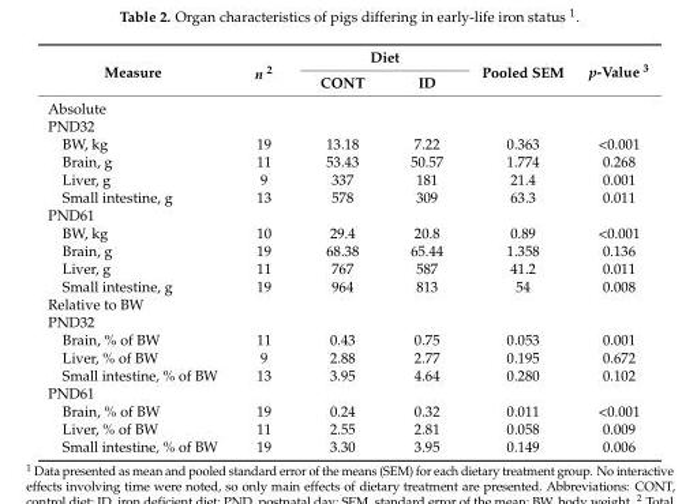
<table><thead><tr><td rowspan="2">Measure</td><td rowspan="2">n <sup>2</sup></td><td colspan="2">Diet</td><td rowspan="2">Pooled SEM</td><td rowspan="2">p-Value <sup>3</sup></td></tr><tr><td>CONT</td><td>ID</td></tr></thead><tbody><tr><td colspan="6">Absolute</td></tr><tr><td colspan="6">PND32</td></tr><tr><td>BW, kg</td><td>19</td><td>13.18</td><td>7.22</td><td>0.363</td><td>&lt;0.001</td></tr><tr><td>Brain, g</td><td>11</td><td>53.43</td><td>50.57</td><td>1.774</td><td>0.268</td></tr><tr><td>Liver, g</td><td>9</td><td>337</td><td>181</td><td>21.4</td><td>0.001</td></tr><tr><td>Small intestine, g</td><td>13</td><td>578</td><td>309</td><td>63.3</td><td>0.011</td></tr><tr><td colspan="6">PND61</td></tr><tr><td>BW, kg</td><td>10</td><td>29.4</td><td>20.8</td><td>0.89</td><td>&lt;0.001</td></tr><tr><td>Brain, g</td><td>19</td><td>68.38</td><td>65.44</td><td>1.358</td><td>0.136</td></tr><tr><td>Liver, g</td><td>11</td><td>767</td><td>587</td><td>41.2</td><td>0.011</td></tr><tr><td>Small intestine, g</td><td>19</td><td>964</td><td>813</td><td>54</td><td>0.008</td></tr><tr><td colspan="6">Relative to BW</td></tr><tr><td colspan="6">PND32</td></tr><tr><td>Brain, % of BW</td><td>11</td><td>0.43</td><td>0.75</td><td>0.053</td><td>0.001</td></tr><tr><td>Liver, % of BW</td><td>9</td><td>2.88</td><td>2.77</td><td>0.195</td><td>0.672</td></tr><tr><td>Small intestine, % of BW</td><td>13</td><td>3.95</td><td>4.64</td><td>0.280</td><td>0.102</td></tr><tr><td colspan="6">PND61</td></tr><tr><td>Brain, % of BW</td><td>19</td><td>0.24</td><td>0.32</td><td>0.011</td><td>&lt;0.001</td></tr><tr><td>Liver, % of BW</td><td>11</td><td>2.55</td><td>2.81</td><td>0.058</td><td>0.009</td></tr><tr><td>Small intestine, % of BW</td><td>19</td><td>3.30</td><td>3.95</td><td>0.149</td><td>0.006</td></tr></tbody></table>